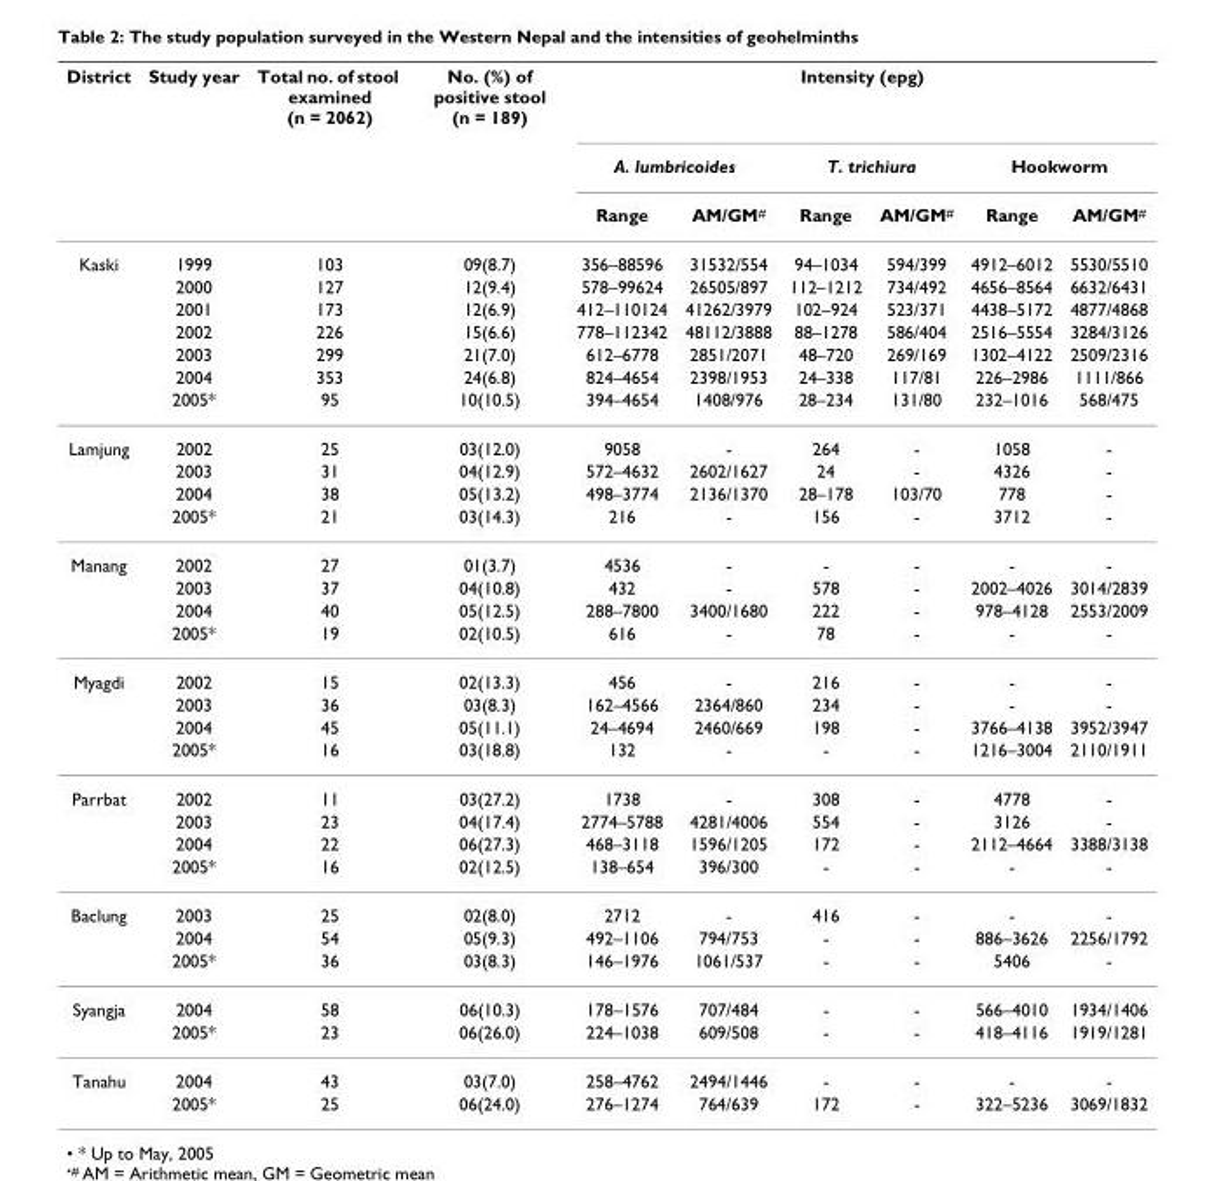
<table><thead><tr><td rowspan="3">District</td><td rowspan="3">Study year</td><td rowspan="3">Total no. of stool examined (n = 2062)</td><td rowspan="3">No. (%) of positive stool (n = 189)</td><td colspan="6">Intensity (epg)</td></tr><tr><td colspan="2">A. lumbricoides</td><td colspan="2">T. trichiura</td><td colspan="2">Hookworm</td></tr><tr><td>Range</td><td>AM/GM<sup>#</sup></td><td>Range</td><td>AM/GM<sup>#</sup></td><td>Range</td><td>AM/GM<sup>#</sup></td></tr></thead><tbody><tr><td rowspan="7">Kaski</td><td>1999</td><td>103</td><td>09(8.7)</td><td>356–88596</td><td>31532/554</td><td>94–1034</td><td>594/399</td><td>4912–6012</td><td>5530/5510</td></tr><tr><td>2000</td><td>127</td><td>12(9.4)</td><td>578–99624</td><td>26505/897</td><td>112–1212</td><td>734/492</td><td>4656–8564</td><td>6632/6431</td></tr><tr><td>2001</td><td>173</td><td>12(6.9)</td><td>412–110124</td><td>41262/3979</td><td>102–924</td><td>523/371</td><td>4438–5172</td><td>4877/4868</td></tr><tr><td>2002</td><td>226</td><td>15(6.6)</td><td>778–112342</td><td>48112/3888</td><td>88–1278</td><td>586/404</td><td>2516–5554</td><td>3284/3126</td></tr><tr><td>2003</td><td>299</td><td>21(7.0)</td><td>612–6778</td><td>2851/2071</td><td>48–720</td><td>269/169</td><td>1302–4122</td><td>2509/2316</td></tr><tr><td>2004</td><td>353</td><td>24(6.8)</td><td>824–4654</td><td>2398/1953</td><td>24–338</td><td>117/81</td><td>226–2986</td><td>1111/866</td></tr><tr><td>2005*</td><td>95</td><td>10(10.5)</td><td>394–4654</td><td>1408/976</td><td>28–234</td><td>131/80</td><td>232–1016</td><td>568/475</td></tr><tr><td rowspan="4">Lamjung</td><td>2002</td><td>25</td><td>03(12.0)</td><td>9058</td><td>-</td><td>264</td><td>-</td><td>1058</td><td>-</td></tr><tr><td>2003</td><td>31</td><td>04(12.9)</td><td>572–4632</td><td>2602/1627</td><td>24</td><td>-</td><td>4326</td><td>-</td></tr><tr><td>2004</td><td>38</td><td>05(13.2)</td><td>498–3774</td><td>2136/1370</td><td>28–178</td><td>103/70</td><td>778</td><td>-</td></tr><tr><td>2005*</td><td>21</td><td>03(14.3)</td><td>216</td><td>-</td><td>156</td><td>-</td><td>3712</td><td>-</td></tr><tr><td rowspan="4">Manang</td><td>2002</td><td>27</td><td>01(3.7)</td><td>4536</td><td>-</td><td>-</td><td>-</td><td>-</td><td>-</td></tr><tr><td>2003</td><td>37</td><td>04(10.8)</td><td>432</td><td>-</td><td>578</td><td>-</td><td>2002–4026</td><td>3014/2839</td></tr><tr><td>2004</td><td>40</td><td>05(12.5)</td><td>288–7800</td><td>3400/1680</td><td>222</td><td>-</td><td>978–4128</td><td>2553/2009</td></tr><tr><td>2005*</td><td>19</td><td>02(10.5)</td><td>616</td><td>-</td><td>78</td><td>-</td><td>-</td><td>-</td></tr><tr><td rowspan="4">Myagdi</td><td>2002</td><td>15</td><td>02(13.3)</td><td>456</td><td>-</td><td>216</td><td>-</td><td>-</td><td>-</td></tr><tr><td>2003</td><td>36</td><td>03(8.3)</td><td>162–4566</td><td>2364/860</td><td>234</td><td>-</td><td>-</td><td>-</td></tr><tr><td>2004</td><td>45</td><td>05(11.1)</td><td>24–4694</td><td>2460/669</td><td>198</td><td>-</td><td>3766–4138</td><td>3952/3947</td></tr><tr><td>2005*</td><td>16</td><td>03(18.8)</td><td>132</td><td>-</td><td>-</td><td>-</td><td>1216–3004</td><td>2110/1911</td></tr><tr><td rowspan="4">Parrbat</td><td>2002</td><td>11</td><td>03(27.2)</td><td>1738</td><td>-</td><td>308</td><td>-</td><td>4778</td><td>-</td></tr><tr><td>2003</td><td>23</td><td>04(17.4)</td><td>2774–5788</td><td>4281/4006</td><td>554</td><td>-</td><td>3126</td><td>-</td></tr><tr><td>2004</td><td>22</td><td>06(27.3)</td><td>468–3118</td><td>1596/1205</td><td>172</td><td>-</td><td>2112–4664</td><td>3388/3138</td></tr><tr><td>2005*</td><td>16</td><td>02(12.5)</td><td>138–654</td><td>396/300</td><td>-</td><td>-</td><td>-</td><td>-</td></tr><tr><td rowspan="3">Baclung</td><td>2003</td><td>25</td><td>02(8.0)</td><td>2712</td><td>-</td><td>416</td><td>-</td><td>-</td><td>-</td></tr><tr><td>2004</td><td>54</td><td>05(9.3)</td><td>492–1106</td><td>794/753</td><td>-</td><td>-</td><td>886–3626</td><td>2256/1792</td></tr><tr><td>2005*</td><td>36</td><td>03(8.3)</td><td>146–1976</td><td>1061/537</td><td>-</td><td>-</td><td>5406</td><td>-</td></tr><tr><td rowspan="2">Syangja</td><td>2004</td><td>58</td><td>06(10.3)</td><td>178–1576</td><td>707/484</td><td>-</td><td>-</td><td>566–4010</td><td>1934/1406</td></tr><tr><td>2005*</td><td>23</td><td>06(26.0)</td><td>224–1038</td><td>609/508</td><td>-</td><td>-</td><td>418–4116</td><td>1919/1281</td></tr><tr><td rowspan="2">Tanahu</td><td>2004</td><td>43</td><td>03(7.0)</td><td>258–4762</td><td>2494/1446</td><td>-</td><td>-</td><td>-</td><td>-</td></tr><tr><td>2005*</td><td>25</td><td>06(24.0)</td><td>276–1274</td><td>764/639</td><td>172</td><td>-</td><td>322–5236</td><td>3069/1832</td></tr></tbody></table>